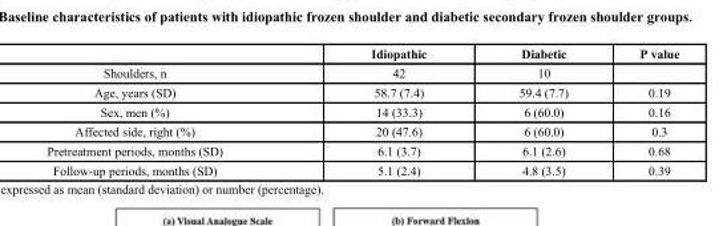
<table><thead><tr><td></td><td>Idiopathic</td><td>Diabetic</td><td>P value</td></tr></thead><tbody><tr><td>Shoulders, n</td><td>42</td><td>10</td><td></td></tr><tr><td>Age, years (SD)</td><td>58.7 (7.4)</td><td>59.4 (7.7)</td><td>0.19</td></tr><tr><td>Sex, men (%)</td><td>14 (33.3)</td><td>6 (60.0)</td><td>0.16</td></tr><tr><td>Affected side, right (%)</td><td>20 (47.6)</td><td>6 (60.0)</td><td>0.3</td></tr><tr><td>Pretreatment periods, months (SD)</td><td>6.1 (3.7)</td><td>6.1 (2.6)</td><td>0.68</td></tr><tr><td>Follow-up periods, months (SD)</td><td>5.1 (2.4)</td><td>4.8 (3.5)</td><td>0.39</td></tr></tbody></table>